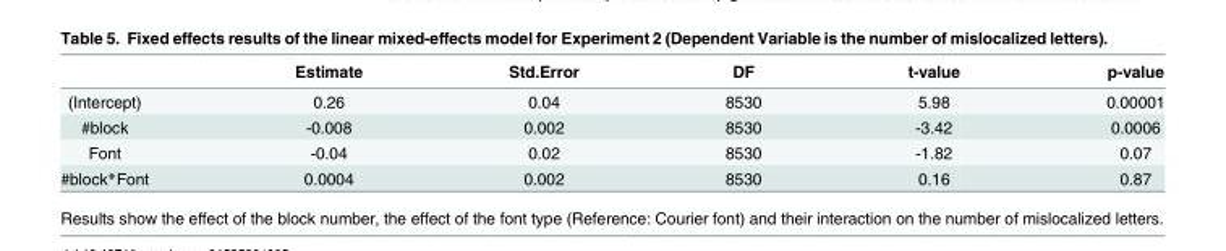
<table><thead><tr><td></td><td>Estimate</td><td>Std.Error</td><td>DF</td><td>t-value</td><td>p-value</td></tr></thead><tbody><tr><td>(Intercept)</td><td>0.26</td><td>0.04</td><td>8530</td><td>5.98</td><td>0.00001</td></tr><tr><td>#block</td><td>-0.008</td><td>0.002</td><td>8530</td><td>-3.42</td><td>0.0006</td></tr><tr><td>Font</td><td>-0.04</td><td>0.02</td><td>8530</td><td>-1.82</td><td>0.07</td></tr><tr><td>#block*Font</td><td>0.0004</td><td>0.002</td><td>8530</td><td>0.16</td><td>0.87</td></tr></tbody></table>